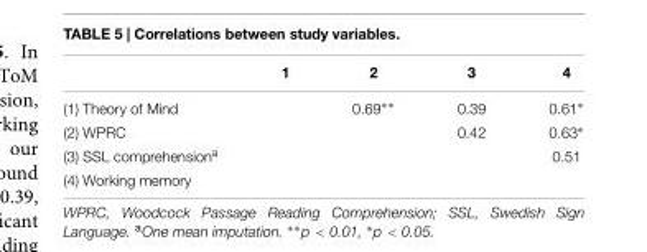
<table><thead><tr><td></td><td>1</td><td>2</td><td>3</td><td>4</td></tr></thead><tbody><tr><td>(1) Theory of Mind</td><td></td><td>0.69∗∗</td><td>0.39</td><td>0.61∗</td></tr><tr><td>(2) WPRC</td><td></td><td></td><td>0.42</td><td>0.63∗</td></tr><tr><td>(3) SSL comprehension<sup>a</sup></td><td></td><td></td><td></td><td>0.51</td></tr><tr><td>(4) Working memory</td><td></td><td></td><td></td><td></td></tr></tbody></table>